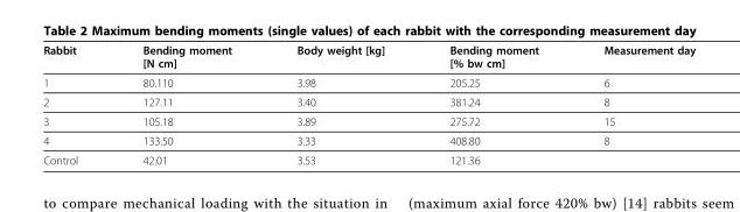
<table><thead><tr><td>Rabbit</td><td>Bending moment [N cm]</td><td>Body weight [kg]</td><td>Bending moment [% bw cm]</td><td>Measurement day</td></tr></thead><tbody><tr><td>1</td><td>80.110</td><td>3.98</td><td>205.25</td><td>6</td></tr><tr><td>2</td><td>127.11</td><td>3.40</td><td>381.24</td><td>8</td></tr><tr><td>3</td><td>105.18</td><td>3.89</td><td>275.72</td><td>15</td></tr><tr><td>4</td><td>133.50</td><td>3.33</td><td>408.80</td><td>8</td></tr><tr><td>Control</td><td>42.01</td><td>3.53</td><td>121.36</td><td></td></tr></tbody></table>